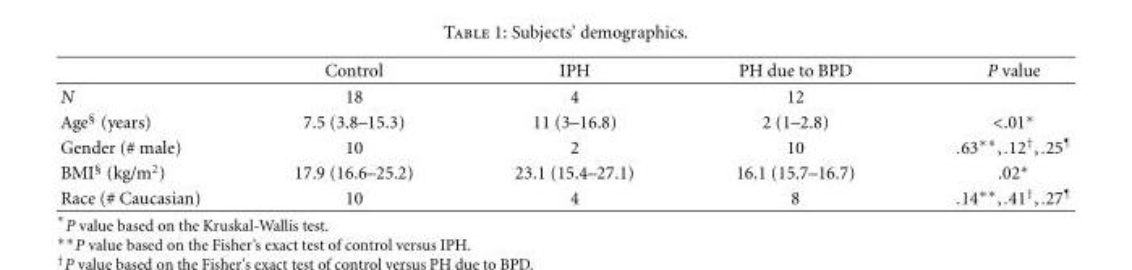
<table><thead><tr><td></td><td>Control</td><td>IPH</td><td>PH due to BPD</td><td>P value</td></tr></thead><tbody><tr><td>N</td><td>18</td><td>4</td><td>12</td><td></td></tr><tr><td>Age<sup>§</sup> (years)</td><td>7.5 (3.8–15.3)</td><td>11 (3–16.8)</td><td>2 (1–2.8)</td><td>&lt;.01∗</td></tr><tr><td>Gender (# male)</td><td>10</td><td>2</td><td>10</td><td>.63∗∗,.12†,.25¶</td></tr><tr><td>BMI<sup>§</sup> (kg/m<sup>2</sup>)</td><td>17.9 (16.6–25.2)</td><td>23.1 (15.4–27.1)</td><td>16.1 (15.7–16.7)</td><td>.02∗</td></tr><tr><td>Race (# Caucasian)</td><td>10</td><td>4</td><td>8</td><td>.14∗∗,.41†,.27¶</td></tr></tbody></table>